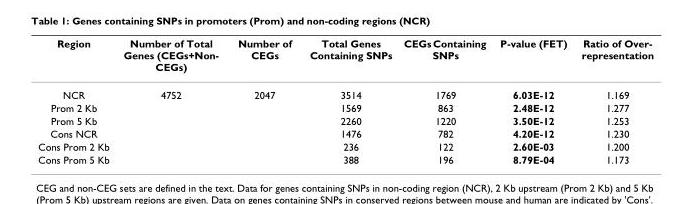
<table><thead><tr><td>Region</td><td>Number of Total Genes (CEGs+Non- CEGs)</td><td>Number of CEGs</td><td>Total Genes Containing SNPs</td><td>CEGs Containing SNPs</td><td>P-value (FET)</td><td>Ratio of Over- representation</td></tr></thead><tbody><tr><td>NCR</td><td>4752</td><td>2047</td><td>3514</td><td>1769</td><td>6.03E-12</td><td>1.169</td></tr><tr><td>Prom 2 Kb</td><td></td><td></td><td>1569</td><td>863</td><td>2.48E-12</td><td>1.277</td></tr><tr><td>Prom 5 Kb</td><td></td><td></td><td>2260</td><td>1220</td><td>3.50E-12</td><td>1.253</td></tr><tr><td>Cons NCR</td><td></td><td></td><td>1476</td><td>782</td><td>4.20E-12</td><td>1.230</td></tr><tr><td>Cons Prom 2 Kb</td><td></td><td></td><td>236</td><td>122</td><td>2.60E-03</td><td>1.200</td></tr><tr><td>Cons Prom 5 Kb</td><td></td><td></td><td>388</td><td>196</td><td>8.79E-04</td><td>1.173</td></tr></tbody></table>